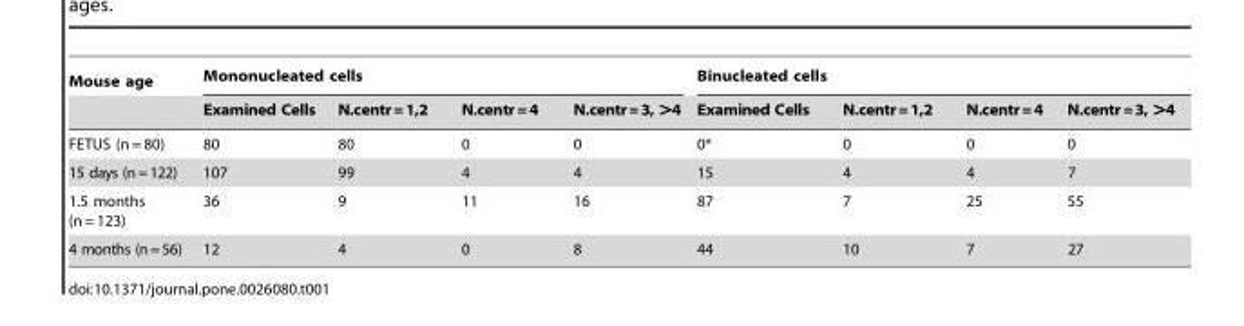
<table><thead><tr><td rowspan="2">Mouse age</td><td colspan="4">Mononucleated cells</td><td colspan="4">Binucleated cells</td></tr><tr><td>Examined Cells</td><td>N.centr=1,2</td><td>N.centr=4</td><td>N.centr=3, &gt;4</td><td>Examined Cells</td><td>N.centr=1,2</td><td>N.centr=4</td><td>N.centr=3, &gt;4</td></tr></thead><tbody><tr><td>FETUS (n = 80)</td><td>80</td><td>80</td><td>0</td><td>0</td><td>0*</td><td>0</td><td>0</td><td>0</td></tr><tr><td>15 days (n=122)</td><td>107</td><td>99</td><td>4</td><td>4</td><td>15</td><td>4</td><td>4</td><td>7</td></tr><tr><td>1.5 months (n = 123)</td><td>36</td><td>9</td><td>11</td><td>16</td><td>87</td><td>7</td><td>25</td><td>55</td></tr><tr><td>4 months (n=56)</td><td>12</td><td>4</td><td>0</td><td>8</td><td>44</td><td>10</td><td>7</td><td>27</td></tr></tbody></table>